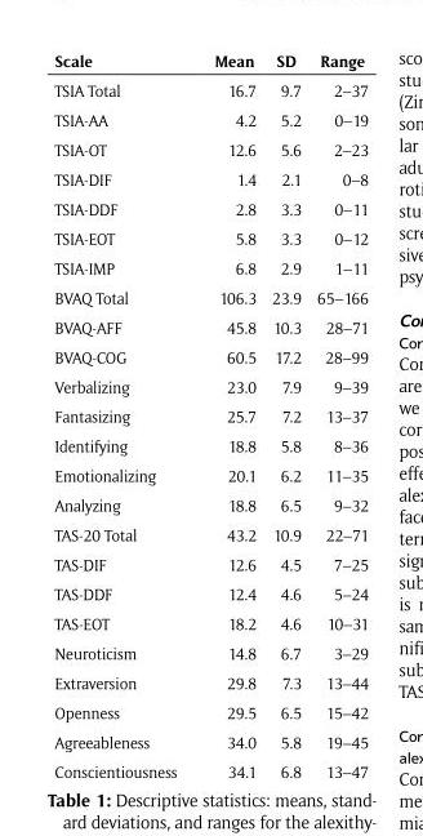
<table><thead><tr><td>Scale</td><td>Mean</td><td>SD</td><td>Range</td></tr></thead><tbody><tr><td>TSIA Total</td><td>16.7</td><td>9.7</td><td>2–37</td></tr><tr><td>TSIA-AA</td><td>4.2</td><td>5.2</td><td>0–19</td></tr><tr><td>TSIA-OT</td><td>12.6</td><td>5.6</td><td>2–23</td></tr><tr><td>TSIA-DIF</td><td>1.4</td><td>2.1</td><td>0–8</td></tr><tr><td>TSIA-DDF</td><td>2.8</td><td>3.3</td><td>0–11</td></tr><tr><td>TSIA-EOT</td><td>5.8</td><td>3.3</td><td>0–12</td></tr><tr><td>TSIA-IMP</td><td>6.8</td><td>2.9</td><td>1–11</td></tr><tr><td>BVAQ Total</td><td>106.3</td><td>23.9</td><td>65–166</td></tr><tr><td>BVAQ-AFF</td><td>45.8</td><td>10.3</td><td>28–71</td></tr><tr><td>BVAQ-COG</td><td>60.5</td><td>17.2</td><td>28–99</td></tr><tr><td>Verbalizing</td><td>23.0</td><td>7.9</td><td>9–39</td></tr><tr><td>Fantasizing</td><td>25.7</td><td>7.2</td><td>13–37</td></tr><tr><td>Identifying</td><td>18.8</td><td>5.8</td><td>8–36</td></tr><tr><td>Emotionalizing</td><td>20.1</td><td>6.2</td><td>11–35</td></tr><tr><td>Analyzing</td><td>18.8</td><td>6.5</td><td>9–32</td></tr><tr><td>TAS-20 Total</td><td>43.2</td><td>10.9</td><td>22–71</td></tr><tr><td>TAS-DIF</td><td>12.6</td><td>4.5</td><td>7–25</td></tr><tr><td>TAS-DDF</td><td>12.4</td><td>4.6</td><td>5–24</td></tr><tr><td>TAS-EOT</td><td>18.2</td><td>4.6</td><td>10–31</td></tr><tr><td>Neuroticism</td><td>14.8</td><td>6.7</td><td>3–29</td></tr><tr><td>Extraversion</td><td>29.8</td><td>7.3</td><td>13–44</td></tr><tr><td>Openness</td><td>29.5</td><td>6.5</td><td>15–42</td></tr><tr><td>Agreeableness</td><td>34.0</td><td>5.8</td><td>19–45</td></tr><tr><td>Conscientiousness</td><td>34.1</td><td>6.8</td><td>13–47</td></tr></tbody></table>